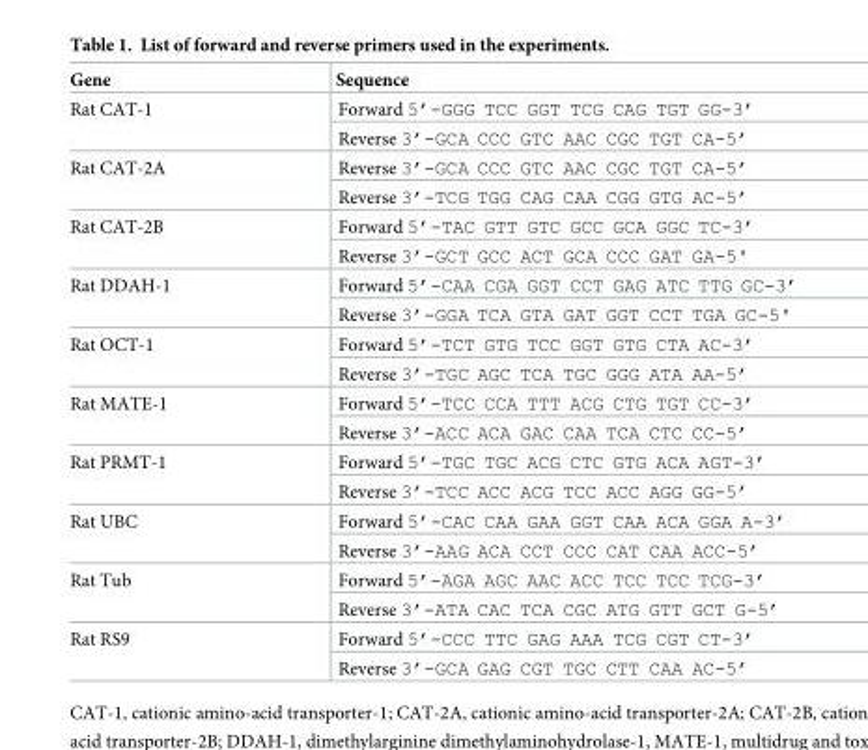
<table><thead><tr><td>Gene</td><td>Sequence</td></tr></thead><tbody><tr><td rowspan="2">Rat CAT-1</td><td>Forward 5’-GGG TCC GGT TCG CAG TGT GG-3’</td></tr><tr><td>Reverse 3’-GCA CCC GTC AAC CGC TGT CA-5’</td></tr><tr><td rowspan="2">Rat CAT-2A</td><td>Reverse 3’-GCA CCC GTC AAC CGC TGT CA-5’</td></tr><tr><td>Reverse 3’-TCG TGG CAG CAA CGG GTG AC-5’</td></tr><tr><td rowspan="2">Rat CAT-2B</td><td>Forward 5’-TAC GTT GTC GCC GCA GGC TC-3’</td></tr><tr><td>Reverse 3’-GCT GCC ACT GCA CCC GAT GA-5&#x27;</td></tr><tr><td rowspan="2">Rat DDAH-1</td><td>Forward 5’-CAA CGA GGT CCT GAG ATC TTG GC-3’</td></tr><tr><td>Reverse 3’-GGA TCA GTA GAT GGT CCT TGA GC-5&#x27;</td></tr><tr><td rowspan="2">Rat OCT-1</td><td>Forward 5’-TCT GTG TCC GGT GTG CTA AC-3’</td></tr><tr><td>Reverse 3’-TGC AGC TCA TGC GGG ATA AA-5’</td></tr><tr><td rowspan="2">Rat MATE-1</td><td>Forward 5’-TCC CCA TTT ACG CTG TGT CC-3’</td></tr><tr><td>Reverse 3’-ACC ACA GAC CAA TCA CTC CC-5’</td></tr><tr><td rowspan="2">Rat PRMT-1</td><td>Forward 5’-TGC TGC ACG CTC GTG ACA AGT-3’</td></tr><tr><td>Reverse 3’-TCC ACC ACG TCC ACC AGG GG-5’</td></tr><tr><td rowspan="2">Rat UBC</td><td>Forward 5’-CAC CAA GAA GGT CAA ACA GGA A-3’</td></tr><tr><td>Reverse 3’-AAG ACA CCT CCC CAT CAA ACC-5’</td></tr><tr><td rowspan="2">Rat Tub</td><td>Forward 5’-AGA AGC AAC ACC TCC TCC TCG-3’</td></tr><tr><td>Reverse 3’-ATA CAC TCA CGC ATG GTT GCT G-5’</td></tr><tr><td rowspan="2">Rat RS9</td><td>Forward 5’-CCC TTC GAG AAA TCG CGT CT-3’</td></tr><tr><td>Reverse 3’-GCA GAG CGT TGC CTT CAA AC-5’</td></tr></tbody></table>